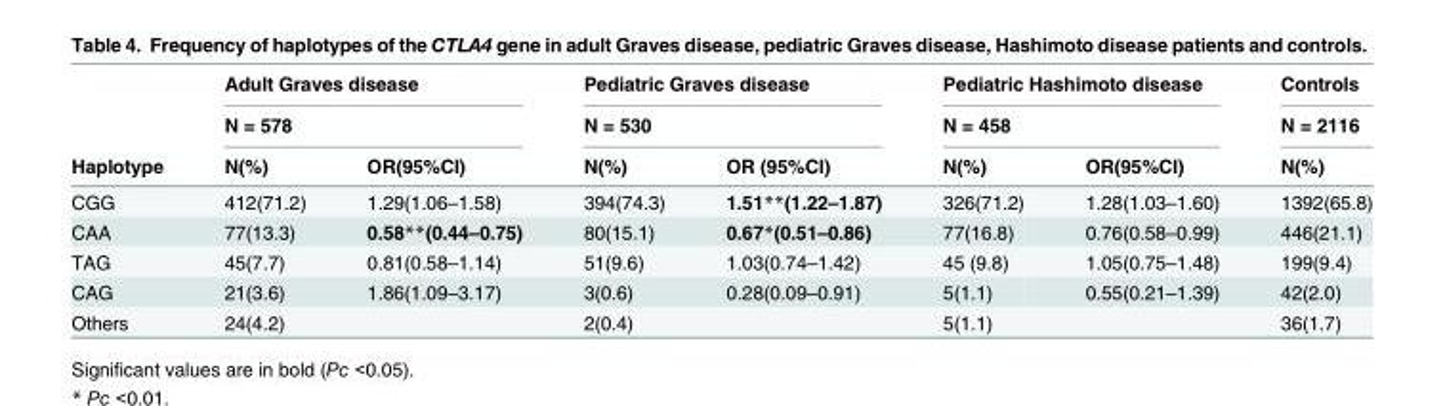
<table><thead><tr><td rowspan="3">Haplotype</td><td rowspan="2" colspan="2">Adult Graves disease N = 578</td><td rowspan="2" colspan="2">Pediatric Graves disease N = 530</td><td rowspan="2" colspan="2">Pediatric Hashimoto disease N = 458</td><td rowspan="3">Controls N = 2116 N(%)</td></tr><tr></tr><tr><td>N(%)</td><td>OR(95%CI)</td><td>N(%)</td><td>OR (95%CI)</td><td>N(%)</td><td>OR(95%CI)</td></tr></thead><tbody><tr><td>CGG</td><td>412(71.2)</td><td>1.29(1.06–1.58)</td><td>394(74.3)</td><td>1.51**(1.22–1.87)</td><td>326(71.2)</td><td>1.28(1.03–1.60)</td><td>1392(65.8)</td></tr><tr><td>CAA</td><td>77(13.3)</td><td>0.58**(0.44–0.75)</td><td>80(15.1)</td><td>0.67*(0.51–0.86)</td><td>77(16.8)</td><td>0.76(0.58–0.99)</td><td>446(21.1)</td></tr><tr><td>TAG</td><td>45(7.7)</td><td>0.81(0.58–1.14)</td><td>51(9.6)</td><td>1.03(0.74–1.42)</td><td>45 (9.8)</td><td>1.05(0.75–1.48)</td><td>199(9.4)</td></tr><tr><td>CAG</td><td>21(3.6)</td><td>1.86(1.09–3.17)</td><td>3(0.6)</td><td>0.28(0.09–0.91)</td><td>5(1.1)</td><td>0.55(0.21–1.39)</td><td>42(2.0)</td></tr><tr><td>Others</td><td>24(4.2)</td><td></td><td>2(0.4)</td><td></td><td>5(1.1)</td><td></td><td>36(1.7)</td></tr></tbody></table>